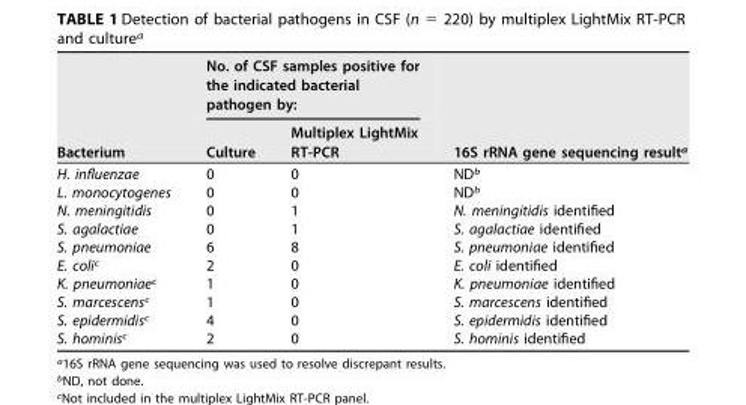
<table><thead><tr><td rowspan="2">Bacterium</td><td colspan="2">No. of CSF samples positive for the indicated bacterial pathogen by:</td><td rowspan="2">16S rRNA gene sequencing result<sup>a</sup></td></tr><tr><td>Culture</td><td>Multiplex LightMix RT-PCR</td></tr></thead><tbody><tr><td>H. influenzae</td><td>0</td><td>0</td><td>ND<sup>b</sup></td></tr><tr><td>L. monocytogenes</td><td>0</td><td>0</td><td>ND<sup>b</sup></td></tr><tr><td>N. meningitidis</td><td>0</td><td>1</td><td>N. meningitidis identified</td></tr><tr><td>S. agalactiae</td><td>0</td><td>1</td><td>S. agalactiae identified</td></tr><tr><td>S. pneumoniae</td><td>6</td><td>8</td><td>S. pneumoniae identified</td></tr><tr><td>E. coli<sup>c</sup></td><td>2</td><td>0</td><td>E. coli identified</td></tr><tr><td>K. pneumoniae<sup>c</sup></td><td>1</td><td>0</td><td>K. pneumoniae identified</td></tr><tr><td>S. marcescens<sup>c</sup></td><td>1</td><td>0</td><td>S. marcescens identified</td></tr><tr><td>S. epidermidis<sup>c</sup></td><td>4</td><td>0</td><td>S. epidermidis identified</td></tr><tr><td>S. hominis<sup>c</sup></td><td>2</td><td>0</td><td>S. hominis identified</td></tr></tbody></table>